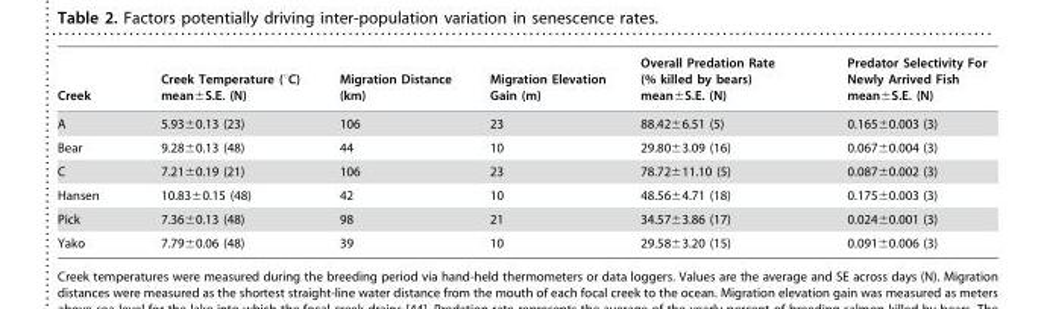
<table><thead><tr><td>Creek</td><td>Creek Temperature (°C) mean±S.E. (N)</td><td>Migration Distance (km)</td><td>Migration Elevation Gain (m)</td><td>Overall Predation Rate (% killed by bears) mean±S.E. (N)</td><td>Predator Selectivity For Newly Arrived Fish mean±S.E. (N)</td></tr></thead><tbody><tr><td>A</td><td>5.93±0.13 (23)</td><td>106</td><td>23</td><td>88.42±6.51 (5)</td><td>0.165±0.003 (3)</td></tr><tr><td>Bear</td><td>9.28±0.13 (48)</td><td>44</td><td>10</td><td>29.80±3.09 (16)</td><td>0.067±0.004 (3)</td></tr><tr><td>C</td><td>7.21±0.19 (21)</td><td>106</td><td>23</td><td>78.72±11.10 (5)</td><td>0.087±0.002 (3)</td></tr><tr><td>Hansen</td><td>10.83±0.15 (48)</td><td>42</td><td>10</td><td>48.56±4.71 (18)</td><td>0.175±0.003 (3)</td></tr><tr><td>Pick</td><td>7.36±0.13 (48)</td><td>98</td><td>21</td><td>34.57±3.86 (17)</td><td>0.024±0.001 (3)</td></tr><tr><td>Yako</td><td>7.79±0.06 (48)</td><td>39</td><td>10</td><td>29.58±3.20 (15)</td><td>0.091±0.006 (3)</td></tr></tbody></table>